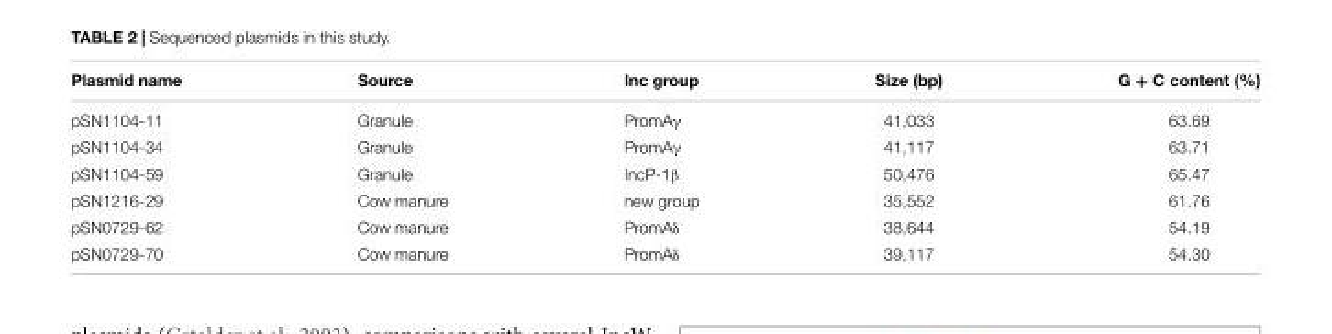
<table><thead><tr><td>Plasmid name</td><td>Source</td><td>Inc group</td><td>Size (bp)</td><td>G + C content (%)</td></tr></thead><tbody><tr><td>pSN1104-11</td><td>Granule</td><td>PromAγ</td><td>41,033</td><td>63.69</td></tr><tr><td>pSN1104-34</td><td>Granule</td><td>PromAγ</td><td>41,117</td><td>63.71</td></tr><tr><td>pSN1104-59</td><td>Granule</td><td>IncP-1β</td><td>50,476</td><td>65.47</td></tr><tr><td>pSN1216-29</td><td>Cow manure</td><td>new group</td><td>35,552</td><td>61.76</td></tr><tr><td>pSN0729-62</td><td>Cow manure</td><td>PromAδ</td><td>38,644</td><td>54.19</td></tr><tr><td>pSN0729-70</td><td>Cow manure</td><td>PromAδ</td><td>39,117</td><td>54.30</td></tr></tbody></table>